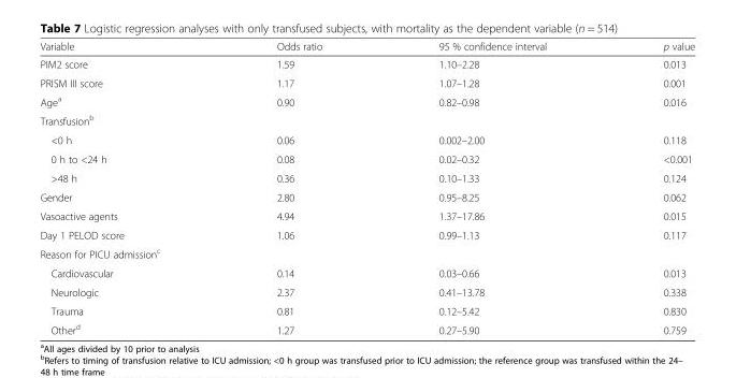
<table><thead><tr><td>Variable</td><td>Odds ratio</td><td>95 % confidence interval</td><td>p value</td></tr></thead><tbody><tr><td>PIM2 score</td><td>1.59</td><td>1.10–2.28</td><td>0.013</td></tr><tr><td>PRISM III score</td><td>1.17</td><td>1.07–1.28</td><td>0.001</td></tr><tr><td>Age<sup>a</sup></td><td>0.90</td><td>0.82–0.98</td><td>0.016</td></tr><tr><td colspan="4">Transfusion<sup>b</sup></td></tr><tr><td>&lt;0 h</td><td>0.06</td><td>0.002–2.00</td><td>0.118</td></tr><tr><td>0 h to &lt;24 h</td><td>0.08</td><td>0.02–0.32</td><td>&lt;0.001</td></tr><tr><td>&gt;48 h</td><td>0.36</td><td>0.10–1.33</td><td>0.124</td></tr><tr><td>Gender</td><td>2.80</td><td>0.95–8.25</td><td>0.062</td></tr><tr><td>Vasoactive agents</td><td>4.94</td><td>1.37–17.86</td><td>0.015</td></tr><tr><td>Day 1 PELOD score</td><td>1.06</td><td>0.99–1.13</td><td>0.117</td></tr><tr><td colspan="4">Reason for PICU admission<sup>c</sup></td></tr><tr><td>Cardiovascular</td><td>0.14</td><td>0.03–0.66</td><td>0.013</td></tr><tr><td>Neurologic</td><td>2.37</td><td>0.41–13.78</td><td>0.338</td></tr><tr><td>Trauma</td><td>0.81</td><td>0.12–5.42</td><td>0.830</td></tr><tr><td>Other<sup>d</sup></td><td>1.27</td><td>0.27–5.90</td><td>0.759</td></tr></tbody></table>